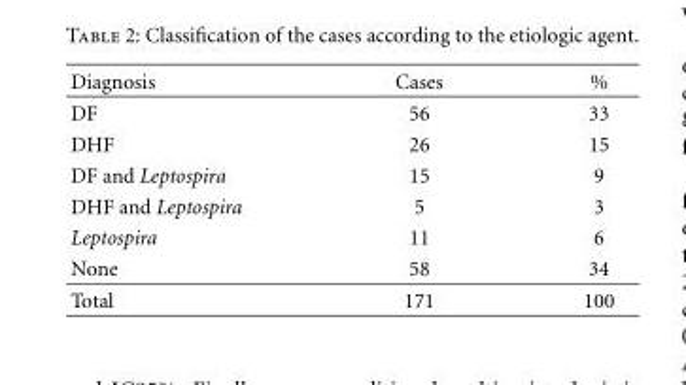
<table><thead><tr><td>Diagnosis</td><td>Cases</td><td>%</td></tr></thead><tbody><tr><td>DF</td><td>56</td><td>33</td></tr><tr><td>DHF</td><td>26</td><td>15</td></tr><tr><td>DF and Leptospira</td><td>15</td><td>9</td></tr><tr><td>DHF and Leptospira</td><td>5</td><td>3</td></tr><tr><td>Leptospira</td><td>11</td><td>6</td></tr><tr><td>None</td><td>58</td><td>34</td></tr><tr><td>Total</td><td>171</td><td>100</td></tr></tbody></table>